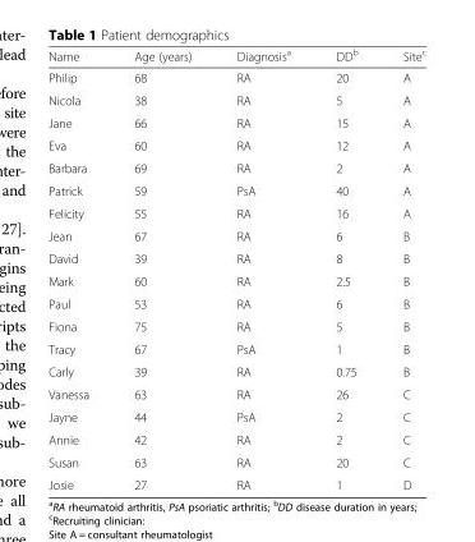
<table><thead><tr><td>Name</td><td>Age (years)</td><td>Diagnosis<sup>a</sup></td><td>DD<sup>b</sup></td><td>Site<sup>c</sup></td></tr></thead><tbody><tr><td>Philip</td><td>68</td><td>RA</td><td>20</td><td>A</td></tr><tr><td>Nicola</td><td>38</td><td>RA</td><td>5</td><td>A</td></tr><tr><td>Jane</td><td>66</td><td>RA</td><td>15</td><td>A</td></tr><tr><td>Eva</td><td>60</td><td>RA</td><td>12</td><td>A</td></tr><tr><td>Barbara</td><td>69</td><td>RA</td><td>2</td><td>A</td></tr><tr><td>Patrick</td><td>59</td><td>PsA</td><td>40</td><td>A</td></tr><tr><td>Felicity</td><td>55</td><td>RA</td><td>16</td><td>A</td></tr><tr><td>Jean</td><td>67</td><td>RA</td><td>6</td><td>B</td></tr><tr><td>David</td><td>39</td><td>RA</td><td>8</td><td>B</td></tr><tr><td>Mark</td><td>60</td><td>RA</td><td>2.5</td><td>B</td></tr><tr><td>Paul</td><td>53</td><td>RA</td><td>6</td><td>B</td></tr><tr><td>Fiona</td><td>75</td><td>RA</td><td>5</td><td>B</td></tr><tr><td>Tracy</td><td>67</td><td>PsA</td><td>1</td><td>B</td></tr><tr><td>Carly</td><td>39</td><td>RA</td><td>0.75</td><td>B</td></tr><tr><td>Vanessa</td><td>63</td><td>RA</td><td>26</td><td>C</td></tr><tr><td>Jayne</td><td>44</td><td>PsA</td><td>2</td><td>C</td></tr><tr><td>Annie</td><td>42</td><td>RA</td><td>2</td><td>C</td></tr><tr><td>Susan</td><td>63</td><td>RA</td><td>20</td><td>C</td></tr><tr><td>Josie</td><td>27</td><td>RA</td><td>1</td><td>D</td></tr></tbody></table>